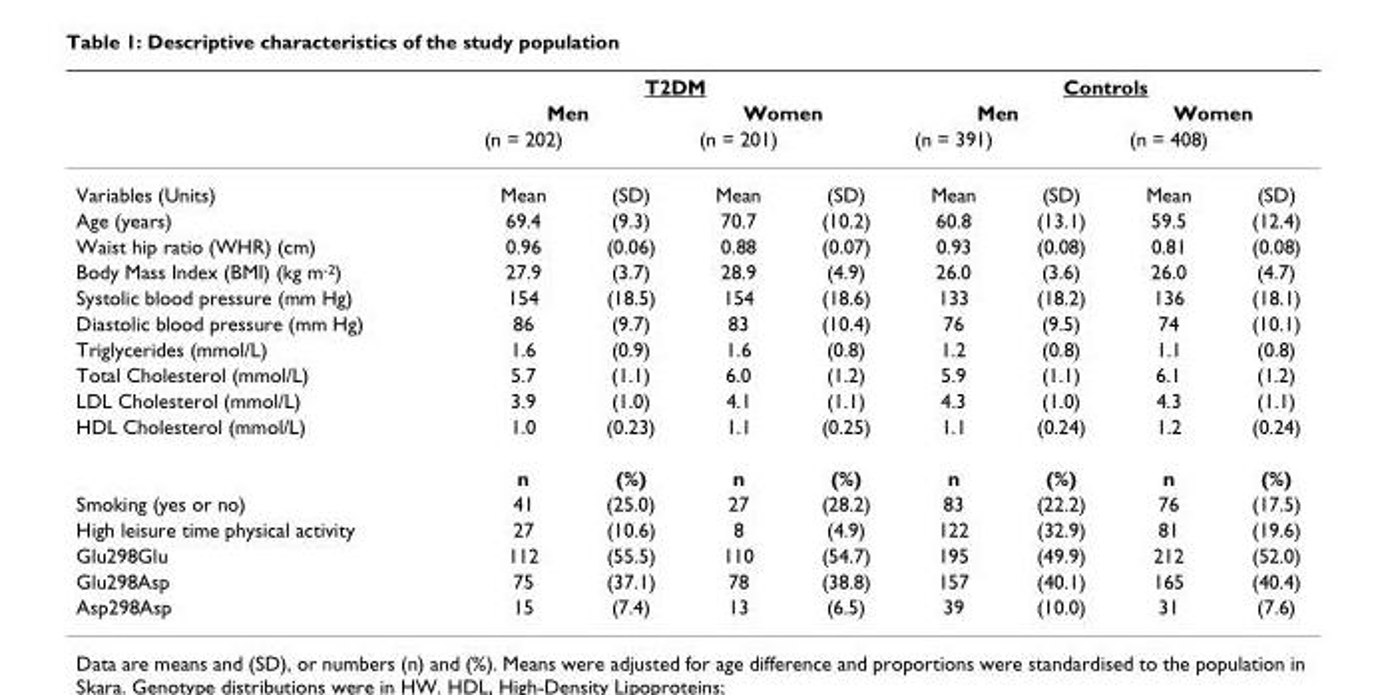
<table><thead><tr><td rowspan="3"></td><td colspan="4">T2DM</td><td colspan="4">Controls</td></tr><tr><td colspan="2">Men</td><td colspan="2">Women</td><td colspan="2">Men</td><td colspan="2">Women</td></tr><tr><td>(n = 202)</td><td></td><td>(n = 201)</td><td></td><td>(n = 391)</td><td></td><td>(n = 408)</td><td></td></tr></thead><tbody><tr><td>Variables (Units)</td><td>Mean</td><td>(SD)</td><td>Mean</td><td>(SD)</td><td>Mean</td><td>(SD)</td><td>Mean</td><td>(SD)</td></tr><tr><td>Age (years)</td><td>69.4</td><td>(9.3)</td><td>70.7</td><td>(10.2)</td><td>60.8</td><td>(13.1)</td><td>59.5</td><td>(12.4)</td></tr><tr><td>Waist hip ratio (WHR) (cm)</td><td>0.96</td><td>(0.06)</td><td>0.88</td><td>(0.07)</td><td>0.93</td><td>(0.08)</td><td>0.81</td><td>(0.08)</td></tr><tr><td>Body Mass Index (BMI) (kg m<sup>-2</sup>)</td><td>27.9</td><td>(3.7)</td><td>28.9</td><td>(4.9)</td><td>26.0</td><td>(3.6)</td><td>26.0</td><td>(4.7)</td></tr><tr><td>Systolic blood pressure (mm Hg)</td><td>154</td><td>(18.5)</td><td>154</td><td>(18.6)</td><td>133</td><td>(18.2)</td><td>136</td><td>(18.1)</td></tr><tr><td>Diastolic blood pressure (mm Hg)</td><td>86</td><td>(9.7)</td><td>83</td><td>(10.4)</td><td>76</td><td>(9.5)</td><td>74</td><td>(10.1)</td></tr><tr><td>Triglycerides (mmol/L)</td><td>1.6</td><td>(0.9)</td><td>1.6</td><td>(0.8)</td><td>1.2</td><td>(0.8)</td><td>1.1</td><td>(0.8)</td></tr><tr><td>Total Cholesterol (mmol/L)</td><td>5.7</td><td>(1.1)</td><td>6.0</td><td>(1.2)</td><td>5.9</td><td>(1.1)</td><td>6.1</td><td>(1.2)</td></tr><tr><td>LDL Cholesterol (mmol/L)</td><td>3.9</td><td>(1.0)</td><td>4.1</td><td>(1.1)</td><td>4.3</td><td>(1.0)</td><td>4.3</td><td>(1.1)</td></tr><tr><td rowspan="2">HDL Cholesterol (mmol/L)</td><td>1.0</td><td>(0.23)</td><td>1.1</td><td>(0.25)</td><td>1.1</td><td>(0.24)</td><td>1.2</td><td>(0.24)</td></tr><tr><td>n</td><td>(%)</td><td>n</td><td>(%)</td><td>n</td><td>(%)</td><td>n</td><td>(%)</td></tr><tr><td>Smoking (yes or no)</td><td>41</td><td>(25.0)</td><td>27</td><td>(28.2)</td><td>83</td><td>(22.2)</td><td>76</td><td>(17.5)</td></tr><tr><td>High leisure time physical activity</td><td>27</td><td>(10.6)</td><td>8</td><td>(4.9)</td><td>122</td><td>(32.9)</td><td>81</td><td>(19.6)</td></tr><tr><td>Glu298Glu</td><td>112</td><td>(55.5)</td><td>110</td><td>(54.7)</td><td>195</td><td>(49.9)</td><td>212</td><td>(52.0)</td></tr><tr><td>Glu298Asp</td><td>75</td><td>(37.1)</td><td>78</td><td>(38.8)</td><td>157</td><td>(40.1)</td><td>165</td><td>(40.4)</td></tr><tr><td>Asp298Asp</td><td>15</td><td>(7.4)</td><td>13</td><td>(6.5)</td><td>39</td><td>(10.0)</td><td>31</td><td>(7.6)</td></tr></tbody></table>